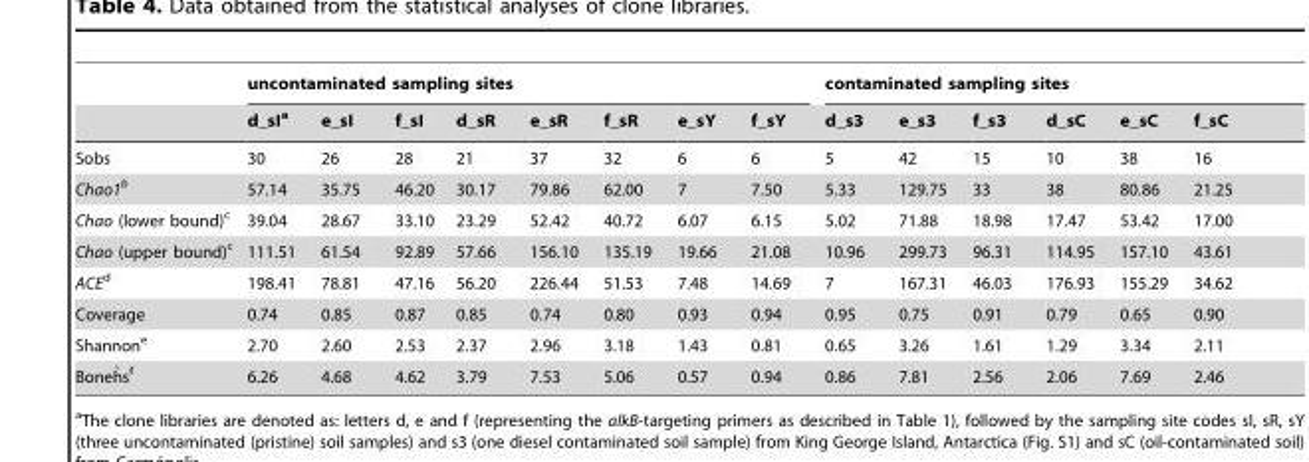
<table><thead><tr><td rowspan="2"></td><td colspan="8">uncontaminated sampling sites</td><td colspan="6">contaminated sampling sites</td></tr><tr><td>d_sI<sup>a</sup></td><td>e_sI</td><td>f_sI</td><td>d_sR</td><td>e_sR</td><td>f_sR</td><td>e_sY</td><td>f_sY</td><td>d_s3</td><td>e_s3</td><td>f_s3</td><td>d_sC</td><td>e_sC</td><td>f_sC</td></tr></thead><tbody><tr><td>Sobs</td><td>30</td><td>26</td><td>28</td><td>21</td><td>37</td><td>32</td><td>6</td><td>6</td><td>5</td><td>42</td><td>15</td><td>10</td><td>38</td><td>16</td></tr><tr><td>Chao1b</td><td>57.14</td><td>35.75</td><td>46.20</td><td>30.17</td><td>79.86</td><td>62.00</td><td>7</td><td>7.50</td><td>5.33</td><td>129.75</td><td>33</td><td>38</td><td>80.86</td><td>21.25</td></tr><tr><td>Chao (lower bound)<sup>c</sup></td><td>39.04</td><td>28.67</td><td>33.10</td><td>23.29</td><td>52.42</td><td>40.72</td><td>6.07</td><td>6.15</td><td>5.02</td><td>71.88</td><td>18.98</td><td>17.47</td><td>53.42</td><td>17.00</td></tr><tr><td>Chao (upper bound)<sup>c</sup></td><td>111.51</td><td>61.54</td><td>92.89</td><td>57.66</td><td>156.10</td><td>135.19</td><td>19.66</td><td>21.08</td><td>10.96</td><td>299.73</td><td>96.31</td><td>114.95</td><td>157.10</td><td>43.61</td></tr><tr><td>ACEd</td><td>198.41</td><td>78.81</td><td>47.16</td><td>56.20</td><td>226.44</td><td>51.53</td><td>7.48</td><td>14.69</td><td>7</td><td>167.31</td><td>46.03</td><td>176.93</td><td>155.29</td><td>34.62</td></tr><tr><td>Coverage</td><td>0.74</td><td>0.85</td><td>0.87</td><td>0.85</td><td>0.74</td><td>0.80</td><td>0.93</td><td>0.94</td><td>0.95</td><td>0.75</td><td>0.91</td><td>0.79</td><td>0.65</td><td>0.90</td></tr><tr><td>Shannon<sup>e</sup></td><td>2.70</td><td>2.60</td><td>2.53</td><td>2.37</td><td>2.96</td><td>3.18</td><td>1.43</td><td>0.81</td><td>0.65</td><td>3.26</td><td>1.61</td><td>1.29</td><td>3.34</td><td>2.11</td></tr><tr><td>Boneh`s<sup>f</sup></td><td>6.26</td><td>4.68</td><td>4.62</td><td>3.79</td><td>7.53</td><td>5.06</td><td>0.57</td><td>0.94</td><td>0.86</td><td>7.81</td><td>2.56</td><td>2.06</td><td>7.69</td><td>2.46</td></tr></tbody></table>